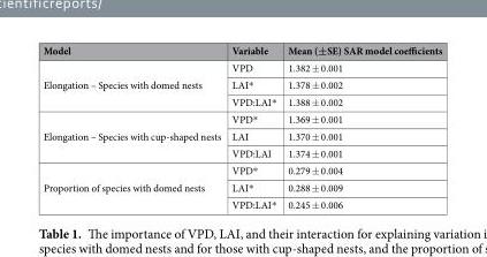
<table><thead><tr><td>Model</td><td>Variable</td><td>Mean (±SE) SAR model coefficients</td></tr></thead><tbody><tr><td rowspan="3">Elongation – Species with domed nests</td><td>VPD</td><td>1.382 ± 0.001</td></tr><tr><td>LAI*</td><td>1.378 ± 0.002</td></tr><tr><td>VPD:LAI*</td><td>1.388 ± 0.002</td></tr><tr><td rowspan="3">Elongation – Species with cup-shaped nests</td><td>VPD*</td><td>1.369 ± 0.001</td></tr><tr><td>LAI</td><td>1.370 ± 0.001</td></tr><tr><td>VPD:LAI</td><td>1.374 ± 0.001</td></tr><tr><td rowspan="3">Proportion of species with domed nests</td><td>VPD*</td><td>0.279 ± 0.004</td></tr><tr><td>LAI*</td><td>0.288 ± 0.009</td></tr><tr><td>VPD:LAI*</td><td>0.245 ± 0.006</td></tr></tbody></table>